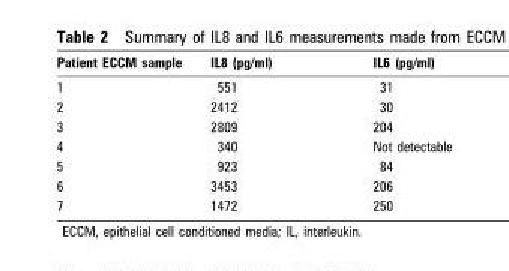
<table><thead><tr><td>Patient ECCM sample</td><td>IL8 (pg/ml)</td><td>IL6 (pg/ml)</td></tr></thead><tbody><tr><td>1</td><td>551</td><td>31</td></tr><tr><td>2</td><td>2412</td><td>30</td></tr><tr><td>3</td><td>2809</td><td>204</td></tr><tr><td>4</td><td>340</td><td>Not detectable</td></tr><tr><td>5</td><td>923</td><td>84</td></tr><tr><td>6</td><td>3453</td><td>206</td></tr><tr><td>7</td><td>1472</td><td>250</td></tr></tbody></table>